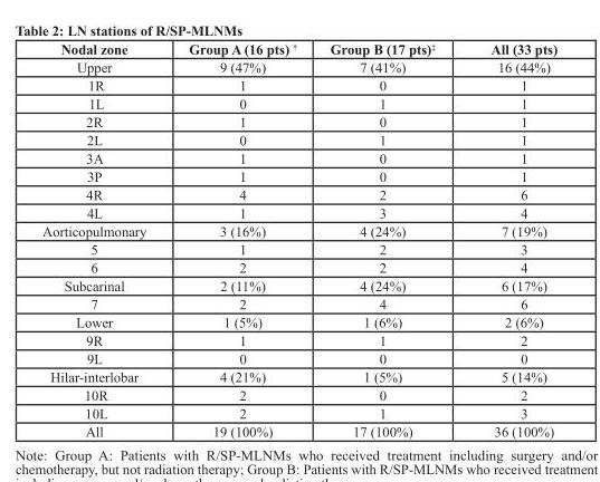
<table><thead><tr><td>Nodal zone</td><td>Group A (16 pts) <sup>†</sup></td><td>Group B (17 pts)<sup>‡</sup></td><td>All (33 pts)</td></tr></thead><tbody><tr><td>Upper</td><td>9 (47%)</td><td>7 (41%)</td><td>16 (44%)</td></tr><tr><td>1R</td><td>1</td><td>0</td><td>1</td></tr><tr><td>1L</td><td>0</td><td>1</td><td>1</td></tr><tr><td>2R</td><td>1</td><td>0</td><td>1</td></tr><tr><td>2L</td><td>0</td><td>1</td><td>1</td></tr><tr><td>3A</td><td>1</td><td>0</td><td>1</td></tr><tr><td>3P</td><td>1</td><td>0</td><td>1</td></tr><tr><td>4R</td><td>4</td><td>2</td><td>6</td></tr><tr><td>4L</td><td>1</td><td>3</td><td>4</td></tr><tr><td>Aorticopulmonary</td><td>3 (16%)</td><td>4 (24%)</td><td>7 (19%)</td></tr><tr><td>5</td><td>1</td><td>2</td><td>3</td></tr><tr><td>6</td><td>2</td><td>2</td><td>4</td></tr><tr><td>Subcarinal</td><td>2 (11%)</td><td>4 (24%)</td><td>6 (17%)</td></tr><tr><td>7</td><td>2</td><td>4</td><td>6</td></tr><tr><td>Lower</td><td>1 (5%)</td><td>1 (6%)</td><td>2 (6%)</td></tr><tr><td>9R</td><td>1</td><td>1</td><td>2</td></tr><tr><td>9L</td><td>0</td><td>0</td><td>0</td></tr><tr><td>Hilar-interlobar</td><td>4 (21%)</td><td>1 (5%)</td><td>5 (14%)</td></tr><tr><td>10R</td><td>2</td><td>0</td><td>2</td></tr><tr><td>10L</td><td>2</td><td>1</td><td>3</td></tr><tr><td>All</td><td>19 (100%)</td><td>17 (100%)</td><td>36 (100%)</td></tr></tbody></table>